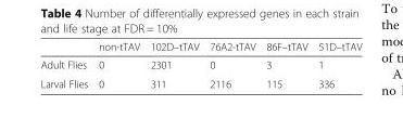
<table><thead><tr><td></td><td>non-tTAV</td><td>102D–tTAV</td><td>76A2-tTAV</td><td>86F–tTAV</td><td>51D–tTAV</td></tr></thead><tbody><tr><td>Adult Flies</td><td>0</td><td>2301</td><td>0</td><td>3</td><td>1</td></tr><tr><td>Larval Flies</td><td>0</td><td>311</td><td>2116</td><td>115</td><td>336</td></tr></tbody></table>